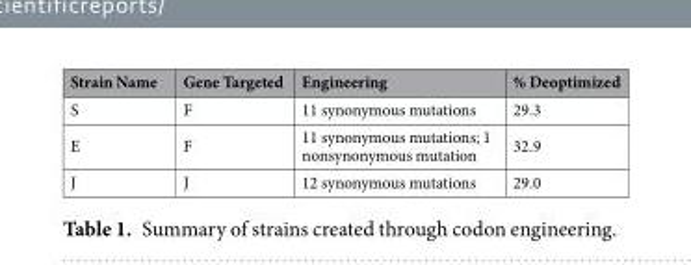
<table><thead><tr><td>Strain Name</td><td>Gene Targeted</td><td>Engineering</td><td>% Deoptimized</td></tr></thead><tbody><tr><td>S</td><td>F</td><td>11 synonymous mutations</td><td>29.3</td></tr><tr><td>E</td><td>F</td><td>11 synonymous mutations; 1 nonsynonymous mutation</td><td>32.9</td></tr><tr><td>J</td><td>J</td><td>12 synonymous mutations</td><td>29.0</td></tr></tbody></table>